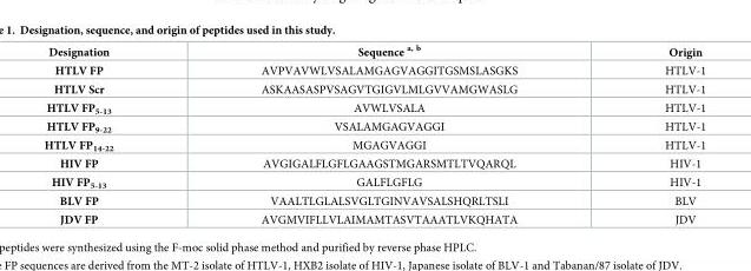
<table><thead><tr><td>Designation</td><td>Sequence <sup>a, b</sup></td><td>Origin</td></tr></thead><tbody><tr><td>HTLV FP</td><td>AVPVAVWLVSALAMGAGVAGGITGSMSLASGKS</td><td>HTLV-1</td></tr><tr><td>HTLV Scr</td><td>ASKAASASPVSAGVTGIGVLMLGVVAMGWASLG</td><td>HTLV-1</td></tr><tr><td>HTLV FP<sub>5-13</sub></td><td>AVWLVSALA</td><td>HTLV-1</td></tr><tr><td>HTLV FP<sub>9-22</sub></td><td>VSALAMGAGVAGGI</td><td>HTLV-1</td></tr><tr><td>HTLV FP<sub>14-22</sub></td><td>MGAGVAGGI</td><td>HTLV-1</td></tr><tr><td>HIV FP</td><td>AVGIGALFLGFLGAAGSTMGARSMTLTVQARQL</td><td>HIV-1</td></tr><tr><td>HIV FP<sub>5-13</sub></td><td>GALFLGFLG</td><td>HIV-1</td></tr><tr><td>BLV FP</td><td>VAALTLGLALSVGLTGINVAVSALSHQRLTSLI</td><td>BLV</td></tr><tr><td>JDV FP</td><td>AVGMVIFLLVLAIMAMTASVTAAATLVKQHATA</td><td>JDV</td></tr></tbody></table>